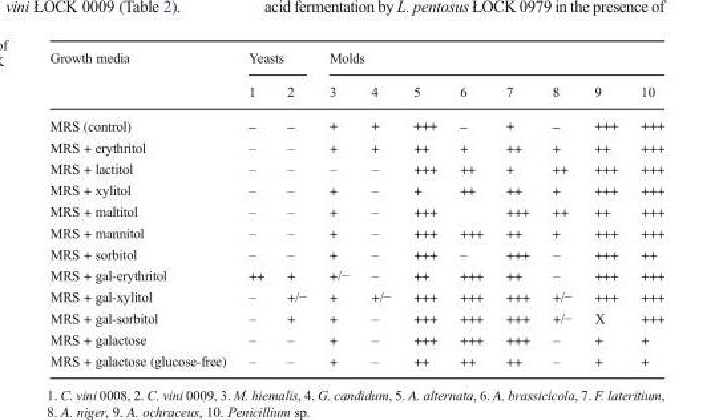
<table><thead><tr><td rowspan="2">Growth media</td><td colspan="2">Yeasts</td><td colspan="8">Molds</td></tr><tr><td>1</td><td>2</td><td>3</td><td>4</td><td>5</td><td>6</td><td>7</td><td>8</td><td>9</td><td>10</td></tr></thead><tbody><tr><td>MRS (control)</td><td>–</td><td>–</td><td>+</td><td>+</td><td>+++</td><td>–</td><td>+</td><td>–</td><td>+++</td><td>+++</td></tr><tr><td>MRS + erythritol</td><td>–</td><td>–</td><td>+</td><td>+</td><td>++</td><td>+</td><td>++</td><td>+</td><td>++</td><td>+++</td></tr><tr><td>MRS + lactitol</td><td>–</td><td>–</td><td>–</td><td>–</td><td>+++</td><td>++</td><td>+</td><td>++</td><td>+++</td><td>+++</td></tr><tr><td>MRS + xylitol</td><td>–</td><td>–</td><td>+</td><td>–</td><td>+</td><td>++</td><td>++</td><td>+</td><td>+++</td><td>+++</td></tr><tr><td>MRS + maltitol</td><td>–</td><td>–</td><td>+</td><td>–</td><td>+++</td><td></td><td>+++</td><td>++</td><td>++</td><td>+++</td></tr><tr><td>MRS + mannitol</td><td>–</td><td>–</td><td>+</td><td>–</td><td>+++</td><td>+++</td><td>++</td><td>+</td><td>+++</td><td>+++</td></tr><tr><td>MRS + sorbitol</td><td>–</td><td>–</td><td>+</td><td>–</td><td>+++</td><td>–</td><td>+++</td><td>–</td><td>+++</td><td>++</td></tr><tr><td>MRS + gal-erythritol</td><td>++</td><td>+</td><td>+/−</td><td>–</td><td>++</td><td>+++</td><td>++</td><td>–</td><td>+++</td><td>+++</td></tr><tr><td>MRS + gal-xylitol</td><td>–</td><td>+/−</td><td>+</td><td>+/−</td><td>+++</td><td>+++</td><td>+++</td><td>+/−</td><td>+++</td><td>+++</td></tr><tr><td>MRS + gal-sorbitol</td><td>–</td><td>+</td><td>+</td><td>–</td><td>+++</td><td>+++</td><td>+++</td><td>+/−</td><td>X</td><td>+++</td></tr><tr><td>MRS + galactose</td><td>–</td><td>–</td><td>+</td><td>–</td><td>+++</td><td>+++</td><td>+++</td><td>–</td><td>+</td><td>+</td></tr><tr><td>MRS + galactose (glucose-free)</td><td>–</td><td>–</td><td>+</td><td>–</td><td>++</td><td>++</td><td>++</td><td>–</td><td>+</td><td>+</td></tr></tbody></table>